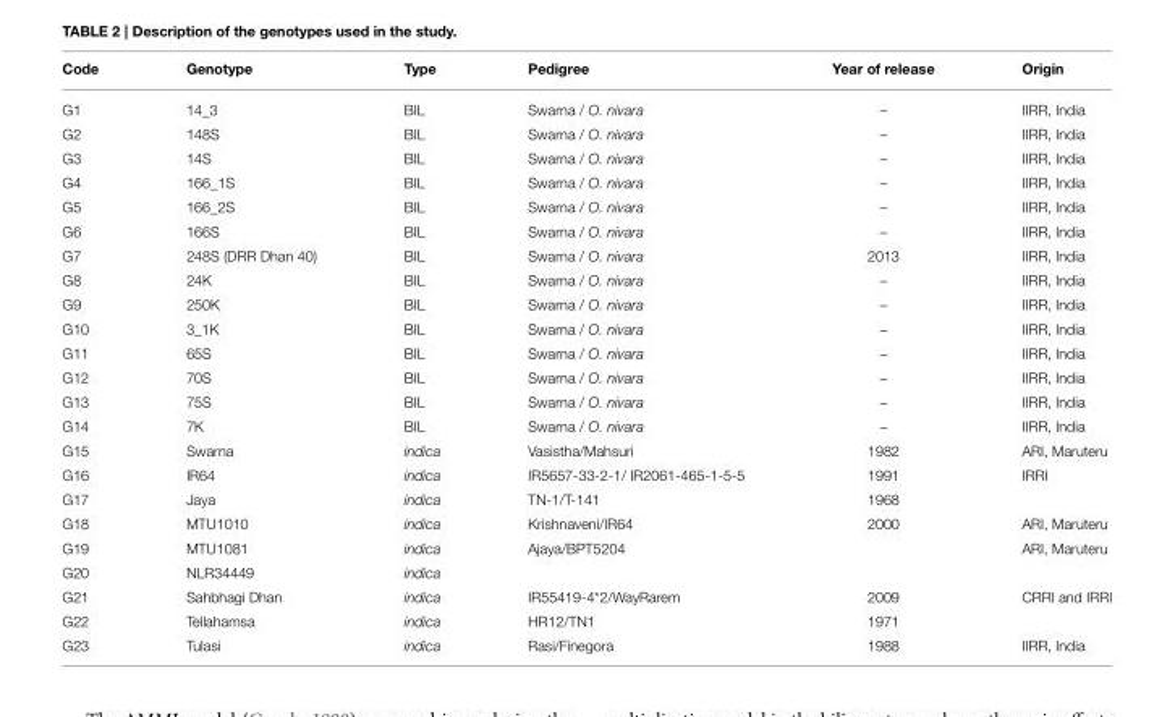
<table><thead><tr><td>Code</td><td>Genotype</td><td>Type</td><td>Pedigree</td><td>Year of release</td><td>Origin</td></tr></thead><tbody><tr><td>G1</td><td>14_3</td><td>BIL</td><td>Swarna / O. nivara</td><td>–</td><td>IIRR, India</td></tr><tr><td>G2</td><td>148S</td><td>BIL</td><td>Swarna / O. nivara</td><td>–</td><td>IIRR, India</td></tr><tr><td>G3</td><td>14S</td><td>BIL</td><td>Swarna / O. nivara</td><td>–</td><td>IIRR, India</td></tr><tr><td>G4</td><td>166_1S</td><td>BIL</td><td>Swarna / O. nivara</td><td>–</td><td>IIRR, India</td></tr><tr><td>G5</td><td>166_2S</td><td>BIL</td><td>Swarna / O. nivara</td><td>–</td><td>IIRR, India</td></tr><tr><td>G6</td><td>166S</td><td>BIL</td><td>Swarna / O. nivara</td><td>–</td><td>IIRR, India</td></tr><tr><td>G7</td><td>248S (DRR Dhan 40)</td><td>BIL</td><td>Swarna / O. nivara</td><td>2013</td><td>IIRR, India</td></tr><tr><td>G8</td><td>24K</td><td>BIL</td><td>Swarna / O. nivara</td><td>–</td><td>IIRR, India</td></tr><tr><td>G9</td><td>250K</td><td>BIL</td><td>Swarna / O. nivara</td><td>–</td><td>IIRR, India</td></tr><tr><td>G10</td><td>3_1K</td><td>BIL</td><td>Swarna / O. nivara</td><td>–</td><td>IIRR, India</td></tr><tr><td>G11</td><td>65S</td><td>BIL</td><td>Swarna / O. nivara</td><td>–</td><td>IIRR, India</td></tr><tr><td>G12</td><td>70S</td><td>BIL</td><td>Swarna / O. nivara</td><td>–</td><td>IIRR, India</td></tr><tr><td>G13</td><td>75S</td><td>BIL</td><td>Swarna / O. nivara</td><td>–</td><td>IIRR, India</td></tr><tr><td>G14</td><td>7K</td><td>BIL</td><td>Swarna / O. nivara</td><td>–</td><td>IIRR, India</td></tr><tr><td>G15</td><td>Swarna</td><td>indica</td><td>Vasistha/Mahsuri</td><td>1982</td><td>ARI, Maruteru</td></tr><tr><td>G16</td><td>IR64</td><td>indica</td><td>IR5657-33-2-1/ IR2061-465-1-5-5</td><td>1991</td><td>IRRI</td></tr><tr><td>G17</td><td>Jaya</td><td>indica</td><td>TN-1/T-141</td><td>1968</td><td></td></tr><tr><td>G18</td><td>MTU1010</td><td>indica</td><td>Krishnaveni/IR64</td><td>2000</td><td>ARI, Maruteru</td></tr><tr><td>G19</td><td>MTU1081</td><td>indica</td><td>Ajaya/BPT5204</td><td></td><td>ARI, Maruteru</td></tr><tr><td>G20</td><td>NLR34449</td><td>indica</td><td></td><td></td><td></td></tr><tr><td>G21</td><td>Sahbhagi Dhan</td><td>indica</td><td>IR55419-4*2/WayRarem</td><td>2009</td><td>CRRI and IRRI</td></tr><tr><td>G22</td><td>Tellahamsa</td><td>indica</td><td>HR12/TN1</td><td>1971</td><td></td></tr><tr><td>G23</td><td>Tulasi</td><td>indica</td><td>Rasi/Finegora</td><td>1988</td><td>IIRR, India</td></tr></tbody></table>